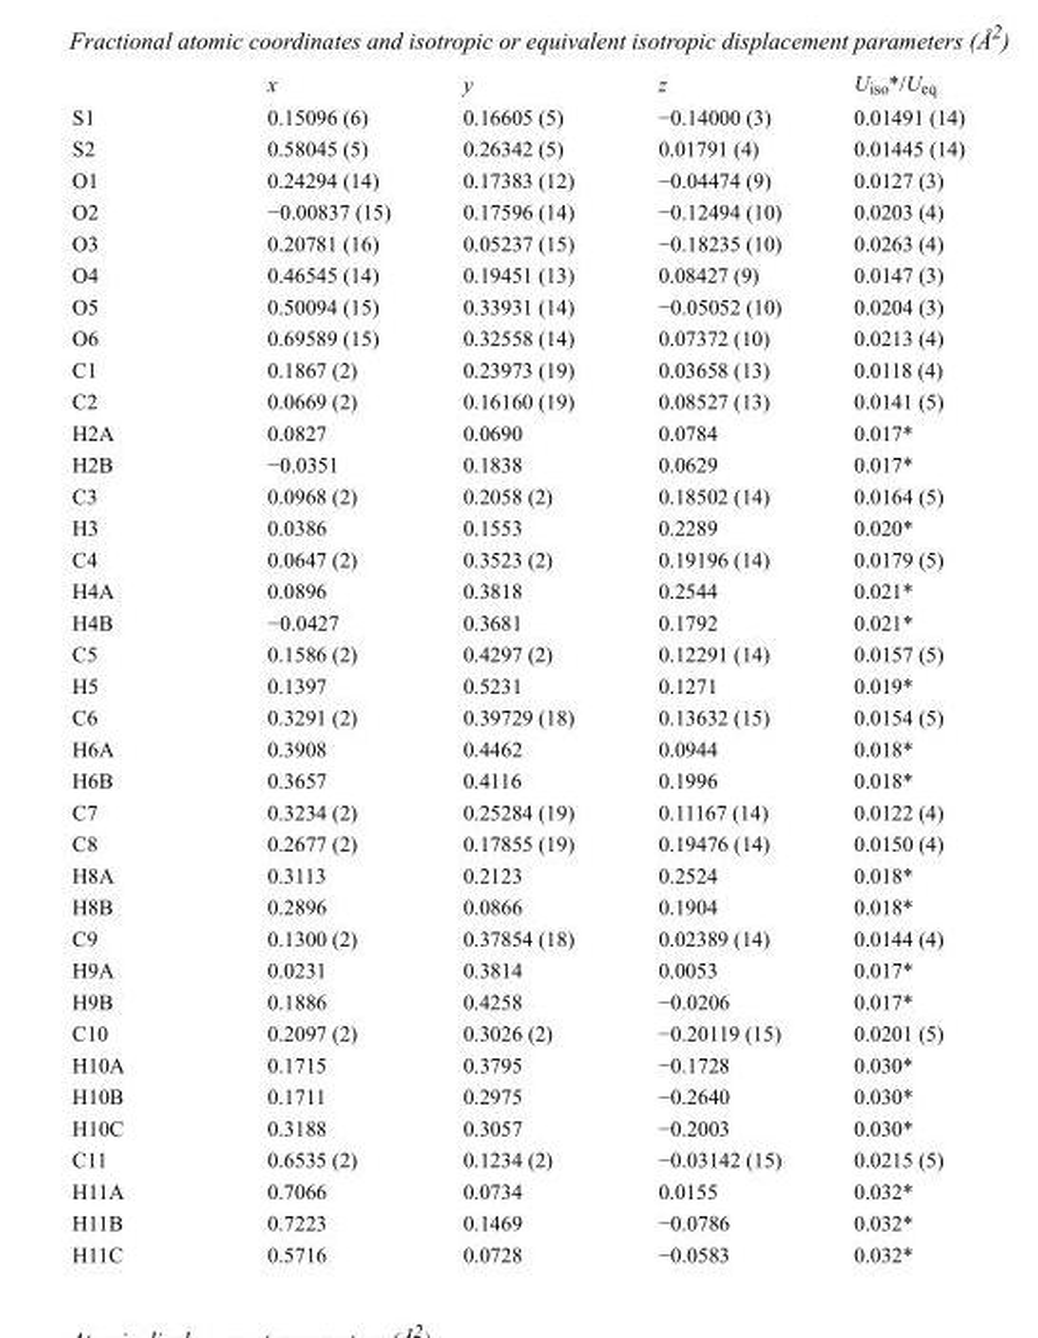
<table><thead><tr><td></td><td>x</td><td>y</td><td>z</td><td>U<sub>iso</sub>*/U<sub>eq</sub></td></tr></thead><tbody><tr><td>S1</td><td>0.15096 (6)</td><td>0.16605 (5)</td><td>−0.14000 (3)</td><td>0.01491 (14)</td></tr><tr><td>S2</td><td>0.58045 (5)</td><td>0.26342 (5)</td><td>0.01791 (4)</td><td>0.01445 (14)</td></tr><tr><td>O1</td><td>0.24294 (14)</td><td>0.17383 (12)</td><td>−0.04474 (9)</td><td>0.0127 (3)</td></tr><tr><td>O2</td><td>−0.00837 (15)</td><td>0.17596 (14)</td><td>−0.12494 (10)</td><td>0.0203 (4)</td></tr><tr><td>O3</td><td>0.20781 (16)</td><td>0.05237 (15)</td><td>−0.18235 (10)</td><td>0.0263 (4)</td></tr><tr><td>O4</td><td>0.46545 (14)</td><td>0.19451 (13)</td><td>0.08427 (9)</td><td>0.0147 (3)</td></tr><tr><td>O5</td><td>0.50094 (15)</td><td>0.33931 (14)</td><td>−0.05052 (10)</td><td>0.0204 (3)</td></tr><tr><td>O6</td><td>0.69589 (15)</td><td>0.32558 (14)</td><td>0.07372 (10)</td><td>0.0213 (4)</td></tr><tr><td>C1</td><td>0.1867 (2)</td><td>0.23973 (19)</td><td>0.03658 (13)</td><td>0.0118 (4)</td></tr><tr><td>C2</td><td>0.0669 (2)</td><td>0.16160 (19)</td><td>0.08527 (13)</td><td>0.0141 (5)</td></tr><tr><td>H2A</td><td>0.0827</td><td>0.0690</td><td>0.0784</td><td>0.017*</td></tr><tr><td>H2B</td><td>−0.0351</td><td>0.1838</td><td>0.0629</td><td>0.017*</td></tr><tr><td>C3</td><td>0.0968 (2)</td><td>0.2058 (2)</td><td>0.18502 (14)</td><td>0.0164 (5)</td></tr><tr><td>H3</td><td>0.0386</td><td>0.1553</td><td>0.2289</td><td>0.020*</td></tr><tr><td>C4</td><td>0.0647 (2)</td><td>0.3523 (2)</td><td>0.19196 (14)</td><td>0.0179 (5)</td></tr><tr><td>H4A</td><td>0.0896</td><td>0.3818</td><td>0.2544</td><td>0.021*</td></tr><tr><td>H4B</td><td>−0.0427</td><td>0.3681</td><td>0.1792</td><td>0.021*</td></tr><tr><td>C5</td><td>0.1586 (2)</td><td>0.4297 (2)</td><td>0.12291 (14)</td><td>0.0157 (5)</td></tr><tr><td>H5</td><td>0.1397</td><td>0.5231</td><td>0.1271</td><td>0.019*</td></tr><tr><td>C6</td><td>0.3291 (2)</td><td>0.39729 (18)</td><td>0.13632 (15)</td><td>0.0154 (5)</td></tr><tr><td>H6A</td><td>0.3908</td><td>0.4462</td><td>0.0944</td><td>0.018*</td></tr><tr><td>H6B</td><td>0.3657</td><td>0.4116</td><td>0.1996</td><td>0.018*</td></tr><tr><td>C7</td><td>0.3234 (2)</td><td>0.25284 (19)</td><td>0.11167 (14)</td><td>0.0122 (4)</td></tr><tr><td>C8</td><td>0.2677 (2)</td><td>0.17855 (19)</td><td>0.19476 (14)</td><td>0.0150 (4)</td></tr><tr><td>H8A</td><td>0.3113</td><td>0.2123</td><td>0.2524</td><td>0.018*</td></tr><tr><td>H8B</td><td>0.2896</td><td>0.0866</td><td>0.1904</td><td>0.018*</td></tr><tr><td>C9</td><td>0.1300 (2)</td><td>0.37854 (18)</td><td>0.02389 (14)</td><td>0.0144 (4)</td></tr><tr><td>H9A</td><td>0.0231</td><td>0.3814</td><td>0.0053</td><td>0.017*</td></tr><tr><td>H9B</td><td>0.1886</td><td>0.4258</td><td>−0.0206</td><td>0.017*</td></tr><tr><td>C10</td><td>0.2097 (2)</td><td>0.3026 (2)</td><td>−0.20119 (15)</td><td>0.0201 (5)</td></tr><tr><td>H10A</td><td>0.1715</td><td>0.3795</td><td>−0.1728</td><td>0.030*</td></tr><tr><td>H10B</td><td>0.1711</td><td>0.2975</td><td>−0.2640</td><td>0.030*</td></tr><tr><td>H10C</td><td>0.3188</td><td>0.3057</td><td>−0.2003</td><td>0.030*</td></tr><tr><td>C11</td><td>0.6535 (2)</td><td>0.1234 (2)</td><td>−0.03142 (15)</td><td>0.0215 (5)</td></tr><tr><td>H11A</td><td>0.7066</td><td>0.0734</td><td>0.0155</td><td>0.032*</td></tr><tr><td>H11B</td><td>0.7223</td><td>0.1469</td><td>−0.0786</td><td>0.032*</td></tr><tr><td>H11C</td><td>0.5716</td><td>0.0728</td><td>−0.0583</td><td>0.032*</td></tr></tbody></table>